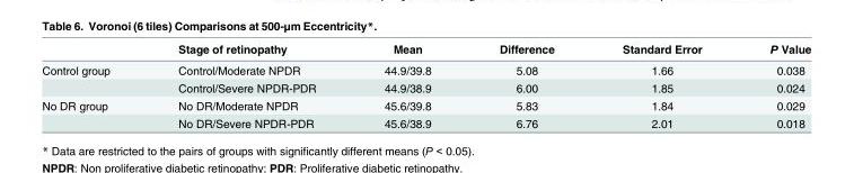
<table><thead><tr><td></td><td>Stage of retinopathy</td><td>Mean</td><td>Difference</td><td>Standard Error</td><td>P Value</td></tr></thead><tbody><tr><td rowspan="2">Control group</td><td>Control/Moderate NPDR</td><td>44.9/39.8</td><td>5.08</td><td>1.66</td><td>0.038</td></tr><tr><td>Control/Severe NPDR-PDR</td><td>44.9/38.9</td><td>6.00</td><td>1.85</td><td>0.024</td></tr><tr><td rowspan="2">No DR group</td><td>No DR/Moderate NPDR</td><td>45.6/39.8</td><td>5.83</td><td>1.84</td><td>0.029</td></tr><tr><td>No DR/Severe NPDR-PDR</td><td>45.6/38.9</td><td>6.76</td><td>2.01</td><td>0.018</td></tr></tbody></table>